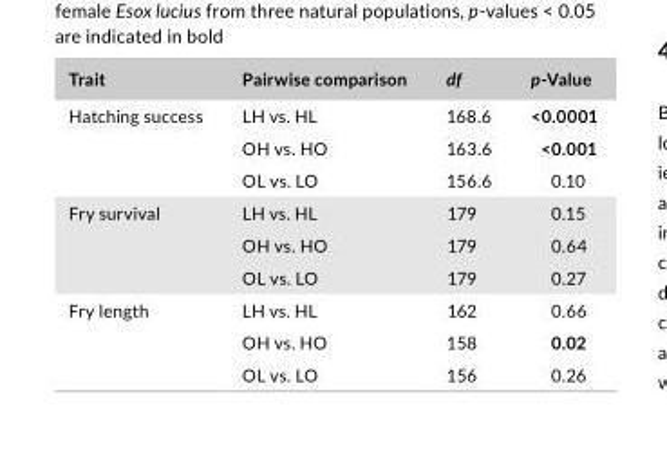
<table><thead><tr><td>Trait</td><td>Pairwise comparison</td><td>df</td><td>p- Value</td></tr></thead><tbody><tr><td rowspan="3">Hatching success</td><td>LH vs. HL</td><td>168.6</td><td>&lt;0.0001</td></tr><tr><td>OH vs. HO</td><td>163.6</td><td>&lt;0.001</td></tr><tr><td>OL vs. LO</td><td>156.6</td><td>0.10</td></tr><tr><td rowspan="3">Fry survival</td><td>LH vs. HL</td><td>179</td><td>0.15</td></tr><tr><td>OH vs. HO</td><td>179</td><td>0.64</td></tr><tr><td>OL vs. LO</td><td>179</td><td>0.27</td></tr><tr><td rowspan="3">Fry length</td><td>LH vs. HL</td><td>162</td><td>0.66</td></tr><tr><td>OH vs. HO</td><td>158</td><td>0.02</td></tr><tr><td>OL vs. LO</td><td>156</td><td>0.26</td></tr></tbody></table>